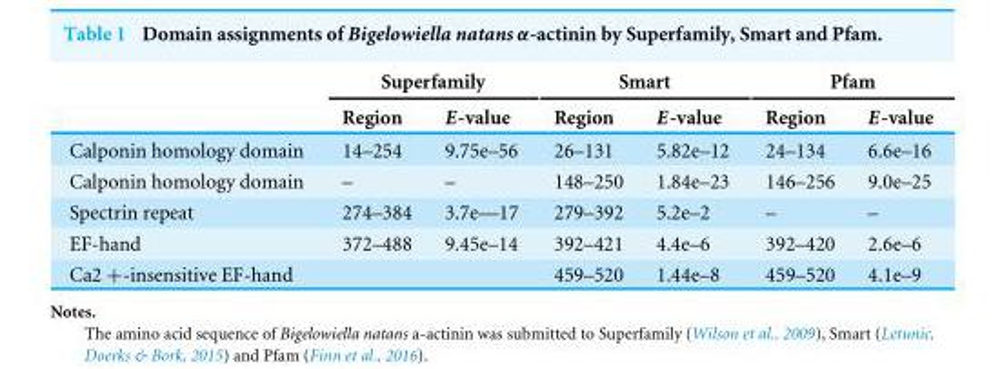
<table><thead><tr><td rowspan="2"></td><td colspan="2">Superfamily</td><td colspan="2">Smart</td><td colspan="2">Pfam</td></tr><tr><td>Region</td><td>E-value</td><td>Region</td><td>E-value</td><td>Region</td><td>E-value</td></tr></thead><tbody><tr><td>Calponin homology domain</td><td>14–254</td><td>9.75e–56</td><td>26–131</td><td>5.82e–12</td><td>24–134</td><td>6.6e–16</td></tr><tr><td>Calponin homology domain</td><td>–</td><td>–</td><td>148–250</td><td>1.84e–23</td><td>146–256</td><td>9.0e–25</td></tr><tr><td>Spectrin repeat</td><td>274–384</td><td>3.7e—17</td><td>279–392</td><td>5.2e–2</td><td>–</td><td>–</td></tr><tr><td>EF-hand</td><td>372–488</td><td>9.45e–14</td><td>392–421</td><td>4.4e–6</td><td>392–420</td><td>2.6e–6</td></tr><tr><td>Ca2 +-insensitive EF-hand</td><td></td><td></td><td>459–520</td><td>1.44e–8</td><td>459–520</td><td>4.1e–9</td></tr></tbody></table>